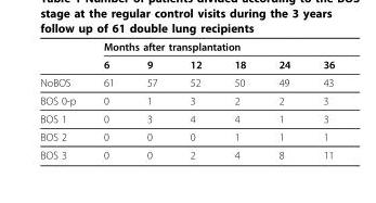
<table><thead><tr><td rowspan="2"></td><td colspan="6">Months after transplantation</td></tr><tr><td>6</td><td>9</td><td>12</td><td>18</td><td>24</td><td>36</td></tr></thead><tbody><tr><td>NoBOS</td><td>61</td><td>57</td><td>52</td><td>50</td><td>49</td><td>43</td></tr><tr><td>BOS 0-p</td><td>0</td><td>1</td><td>3</td><td>2</td><td>2</td><td>3</td></tr><tr><td>BOS 1</td><td>0</td><td>3</td><td>4</td><td>4</td><td>1</td><td>3</td></tr><tr><td>BOS 2</td><td>0</td><td>0</td><td>0</td><td>1</td><td>1</td><td>1</td></tr><tr><td>BOS 3</td><td>0</td><td>0</td><td>2</td><td>4</td><td>8</td><td>11</td></tr></tbody></table>